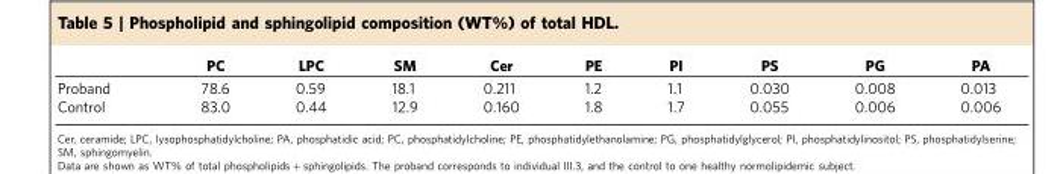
<table><thead><tr><td></td><td>PC</td><td>LPC</td><td>SM</td><td>Cer</td><td>PE</td><td>PI</td><td>PS</td><td>PG</td><td>PA</td></tr></thead><tbody><tr><td>Proband</td><td>78.6</td><td>0.59</td><td>18.1</td><td>0.211</td><td>1.2</td><td>1.1</td><td>0.030</td><td>0.008</td><td>0.013</td></tr><tr><td>Control</td><td>83.0</td><td>0.44</td><td>12.9</td><td>0.160</td><td>1.8</td><td>1.7</td><td>0.055</td><td>0.006</td><td>0.006</td></tr></tbody></table>